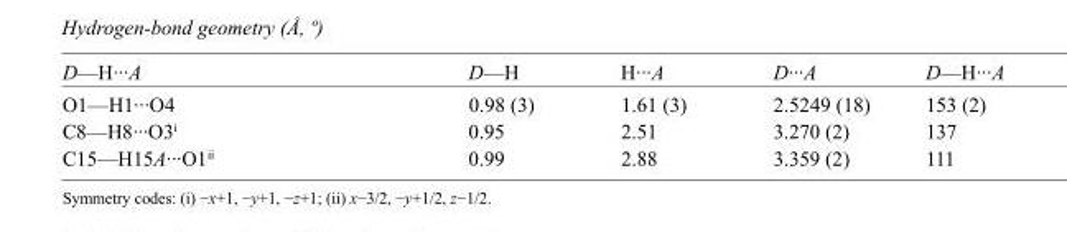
<table><tbody><tr><td>D—H···A</td><td>D—H</td><td>H···A</td><td>D···A</td><td>D—H···A</td></tr><tr><td>O1—H1···O4</td><td>0.98 (3)</td><td>1.61 (3)</td><td>2.5249 (18)</td><td>153 (2)</td></tr><tr><td>C8—H8···O3<sup>i</sup></td><td>0.95</td><td>2.51</td><td>3.270 (2)</td><td>137</td></tr><tr><td>C15—H15A···O1<sup>ii</sup></td><td>0.99</td><td>2.88</td><td>3.359 (2)</td><td>111</td></tr></tbody></table>